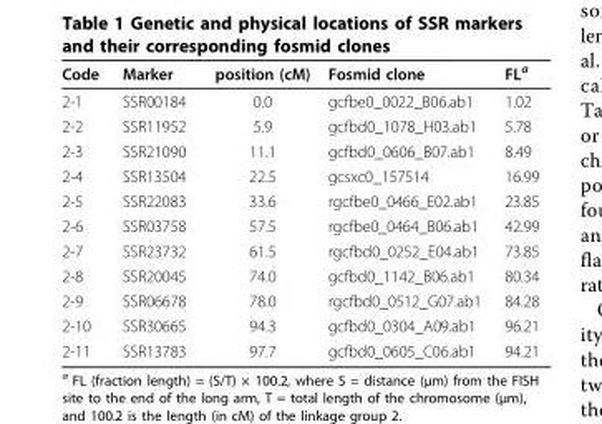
<table><thead><tr><td>Code</td><td>Marker</td><td>position (cM)</td><td>Fosmid clone</td><td>FL<sup>a</sup></td></tr></thead><tbody><tr><td>2-1</td><td>SSR00184</td><td>0.0</td><td>gcfbe0_0022_B06.ab1</td><td>1.02</td></tr><tr><td>2-2</td><td>SSR11952</td><td>5.9</td><td>gcfbd0_1078_H03.ab1</td><td>5.78</td></tr><tr><td>2-3</td><td>SSR21090</td><td>11.1</td><td>gcfbd0_0606_B07.ab1</td><td>8.49</td></tr><tr><td>2-4</td><td>SSR13504</td><td>22.5</td><td>gcsxc0_157514</td><td>16.99</td></tr><tr><td>2-5</td><td>SSR22083</td><td>33.6</td><td>rgcfbe0_0466_E02.ab1</td><td>23.85</td></tr><tr><td>2-6</td><td>SSR03758</td><td>57.5</td><td>rgcfbe0_0464_B06.ab1</td><td>42.99</td></tr><tr><td>2-7</td><td>SSR23732</td><td>61.5</td><td>rgcfbd0_0252_E04.ab1</td><td>73.85</td></tr><tr><td>2-8</td><td>SSR20045</td><td>74.0</td><td>gcfbd0_1142_B06.ab1</td><td>80.34</td></tr><tr><td>2-9</td><td>SSR06678</td><td>78.0</td><td>rgcfbd0_0512_G07.ab1</td><td>84.28</td></tr><tr><td>2-10</td><td>SSR30665</td><td>94.3</td><td>gcfbd0_0304_A09.ab1</td><td>96.21</td></tr><tr><td>2-11</td><td>SSR13783</td><td>97.7</td><td>gcfbd0_0605_C06.ab1</td><td>94.21</td></tr></tbody></table>